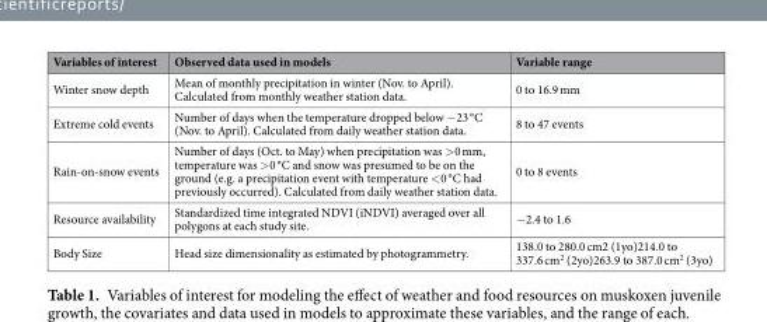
<table><thead><tr><td>Variables of interest</td><td>Observed data used in models</td><td>Variable range</td></tr></thead><tbody><tr><td>Winter snow depth</td><td>Mean of monthly precipitation in winter (Nov. to April). Calculated from monthly weather station data.</td><td>0 to 16.9 mm</td></tr><tr><td>Extreme cold events</td><td>Number of days when the temperature dropped below −23 °C (Nov. to April). Calculated from daily weather station data.</td><td>8 to 47 events</td></tr><tr><td>Rain-on-snow events</td><td>Number of days (Oct. to May) when precipitation was &gt;0 mm, temperature was &gt;0 °C and snow was presumed to be on the ground (e.g. a precipitation event with temperature &lt;0 °C had previously occurred). Calculated from daily weather station data.</td><td>0 to 8 events</td></tr><tr><td>Resource availability</td><td>Standardized time integrated NDVI (iNDVI) averaged over all polygons at each study site.</td><td>−2.4 to 1.6</td></tr><tr><td>Body Size</td><td>Head size dimensionality as estimated by photogrammetry.</td><td>138.0 to 280.0 cm2 (1yo)214.0 to 337.6 cm<sup>2</sup> (2yo)263.9 to 387.0 cm<sup>2</sup> (3yo)</td></tr></tbody></table>